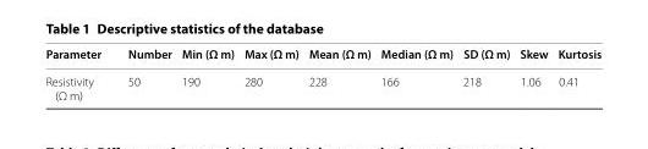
<table><thead><tr><td>Parameter</td><td>Number</td><td>Min (Ω m)</td><td>Max (Ω m)</td><td>Mean (Ω m)</td><td>Median (Ω m)</td><td>SD (Ω m)</td><td>Skew</td><td>Kurtosis</td></tr></thead><tbody><tr><td>Resistivity (Ω m)</td><td>50</td><td>190</td><td>280</td><td>228</td><td>166</td><td>218</td><td>1.06</td><td>0.41</td></tr></tbody></table>